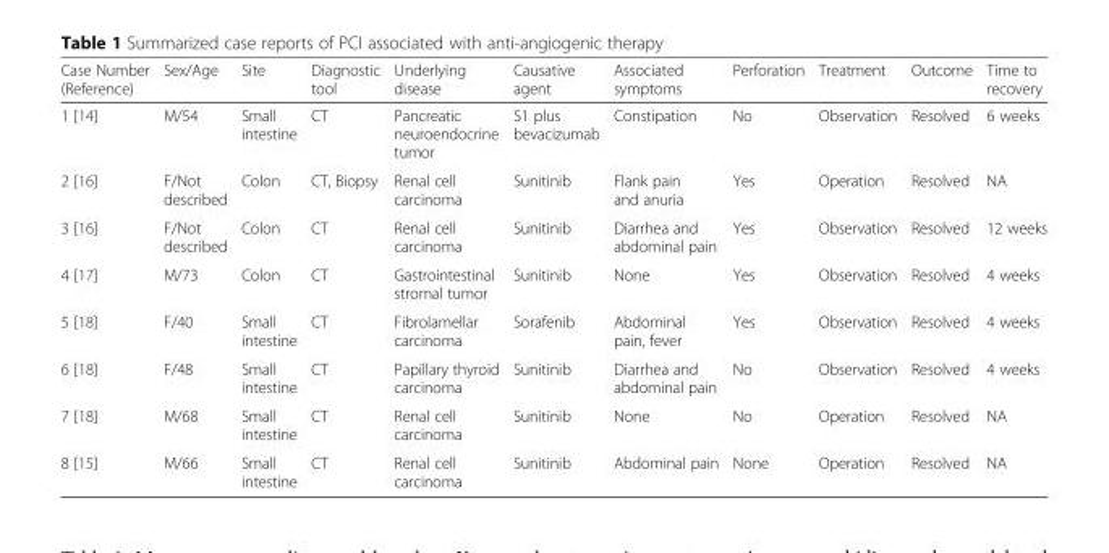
<table><thead><tr><td>Case Number (Reference)</td><td>Sex/Age</td><td>Site</td><td>Diagnostic tool</td><td>Underlying disease</td><td>Causative agent</td><td>Associated symptoms</td><td>Perforation</td><td>Treatment</td><td>Outcome</td><td>Time to recovery</td></tr></thead><tbody><tr><td>1 [14]</td><td>M/54</td><td>Small intestine</td><td>CT</td><td>Pancreatic neuroendocrine tumor</td><td>S1 plus bevacizumab</td><td>Constipation</td><td>No</td><td>Observation</td><td>Resolved</td><td>6 weeks</td></tr><tr><td>2 [16]</td><td>F/Not described</td><td>Colon</td><td>CT, Biopsy</td><td>Renal cell carcinoma</td><td>Sunitinib</td><td>Flank pain and anuria</td><td>Yes</td><td>Operation</td><td>Resolved</td><td>NA</td></tr><tr><td>3 [16]</td><td>F/Not described</td><td>Colon</td><td>CT</td><td>Renal cell carcinoma</td><td>Sunitinib</td><td>Diarrhea and abdominal pain</td><td>Yes</td><td>Observation</td><td>Resolved</td><td>12 weeks</td></tr><tr><td>4 [17]</td><td>M/73</td><td>Colon</td><td>CT</td><td>Gastrointestinal stromal tumor</td><td>Sunitinib</td><td>None</td><td>Yes</td><td>Observation</td><td>Resolved</td><td>4 weeks</td></tr><tr><td>5 [18]</td><td>F/40</td><td>Small intestine</td><td>CT</td><td>Fibrolamellar carcinoma</td><td>Sorafenib</td><td>Abdominal pain, fever</td><td>Yes</td><td>Observation</td><td>Resolved</td><td>4 weeks</td></tr><tr><td>6 [18]</td><td>F/48</td><td>Small intestine</td><td>CT</td><td>Papillary thyroid carcinoma</td><td>Sunitinib</td><td>Diarrhea and abdominal pain</td><td>No</td><td>Observation</td><td>Resolved</td><td>4 weeks</td></tr><tr><td>7 [18]</td><td>M/68</td><td>Small intestine</td><td>CT</td><td>Renal cell carcinoma</td><td>Sunitinib</td><td>None</td><td>No</td><td>Operation</td><td>Resolved</td><td>NA</td></tr><tr><td>8 [15]</td><td>M/66</td><td>Small intestine</td><td>CT</td><td>Renal cell carcinoma</td><td>Sunitinib</td><td>Abdominal pain</td><td>None</td><td>Operation</td><td>Resolved</td><td>NA</td></tr></tbody></table>